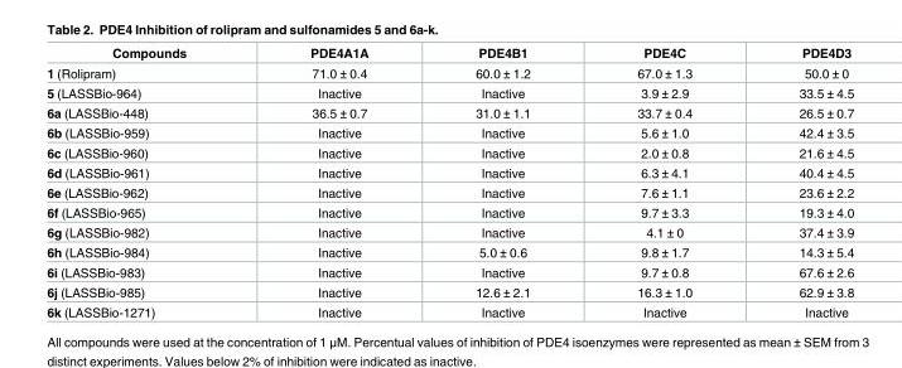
<table><thead><tr><td>Compounds</td><td>PDE4A1A</td><td>PDE4B1</td><td>PDE4C</td><td>PDE4D3</td></tr></thead><tbody><tr><td>1 (Rolipram)</td><td>71.0 ± 0.4</td><td>60.0 ± 1.2</td><td>67.0 ± 1.3</td><td>50.0 ± 0</td></tr><tr><td>5 (LASSBio-964)</td><td>Inactive</td><td>Inactive</td><td>3.9 ± 2.9</td><td>33.5 ± 4.5</td></tr><tr><td>6a (LASSBio-448)</td><td>36.5 ± 0.7</td><td>31.0 ± 1.1</td><td>33.7 ± 0.4</td><td>26.5 ± 0.7</td></tr><tr><td>6b (LASSBio-959)</td><td>Inactive</td><td>Inactive</td><td>5.6 ± 1.0</td><td>42.4 ± 3.5</td></tr><tr><td>6c (LASSBio-960)</td><td>Inactive</td><td>Inactive</td><td>2.0 ± 0.8</td><td>21.6 ± 4.5</td></tr><tr><td>6d (LASSBio-961)</td><td>Inactive</td><td>Inactive</td><td>6.3 ± 4.1</td><td>40.4 ± 4.5</td></tr><tr><td>6e (LASSBio-962)</td><td>Inactive</td><td>Inactive</td><td>7.6 ± 1.1</td><td>23.6 ± 2.2</td></tr><tr><td>6f (LASSBio-965)</td><td>Inactive</td><td>Inactive</td><td>9.7 ± 3.3</td><td>19.3 ± 4.0</td></tr><tr><td>6g (LASSBio-982)</td><td>Inactive</td><td>Inactive</td><td>4.1 ± 0</td><td>37.4 ± 3.9</td></tr><tr><td>6h (LASSBio-984)</td><td>Inactive</td><td>5.0 ± 0.6</td><td>9.8 ± 1.7</td><td>14.3 ± 5.4</td></tr><tr><td>6i (LASSBio-983)</td><td>Inactive</td><td>Inactive</td><td>9.7 ± 0.8</td><td>67.6 ± 2.6</td></tr><tr><td>6j (LASSBio-985)</td><td>Inactive</td><td>12.6 ± 2.1</td><td>16.3 ± 1.0</td><td>62.9 ± 3.8</td></tr><tr><td>6k (LASSBio-1271)</td><td>Inactive</td><td>Inactive</td><td>Inactive</td><td>Inactive</td></tr></tbody></table>